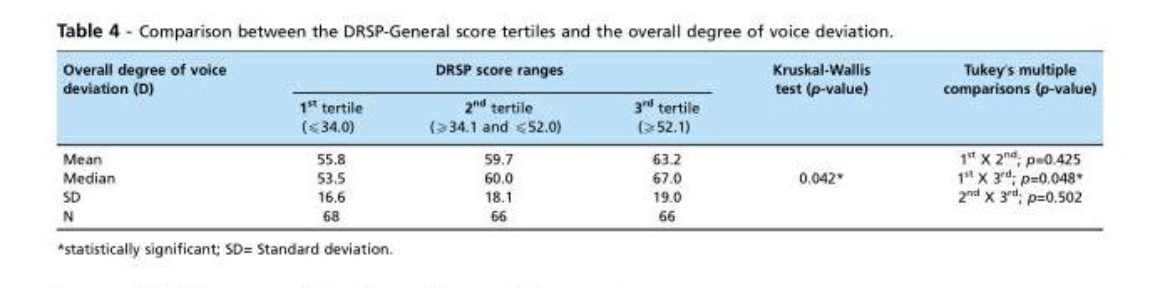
<table><thead><tr><td rowspan="2">Overall degree of voice deviation (D)</td><td colspan="3">DRSP score ranges</td><td rowspan="2">Kruskal-Wallis test (p-value)</td><td rowspan="2">Tukey’s multiple comparisons (p-value)</td></tr><tr><td>1<sup>st</sup> tertile (≤34.0)</td><td>2<sup>nd</sup> tertile (≥34.1 and ≤52.0)</td><td>3<sup>rd</sup> tertile (≥52.1)</td></tr></thead><tbody><tr><td>Mean</td><td>55.8</td><td>59.7</td><td>63.2</td><td></td><td>1<sup>st</sup> X 2<sup>nd</sup>; p=0.425</td></tr><tr><td>Median</td><td>53.5</td><td>60.0</td><td>67.0</td><td>0.042*</td><td>1<sup>st</sup> X 3<sup>rd</sup>; p=0.048*</td></tr><tr><td>SD</td><td>16.6</td><td>18.1</td><td>19.0</td><td></td><td>2<sup>nd</sup> X 3<sup>rd</sup>; p=0.502</td></tr><tr><td>N</td><td>68</td><td>66</td><td>66</td><td></td><td></td></tr></tbody></table>